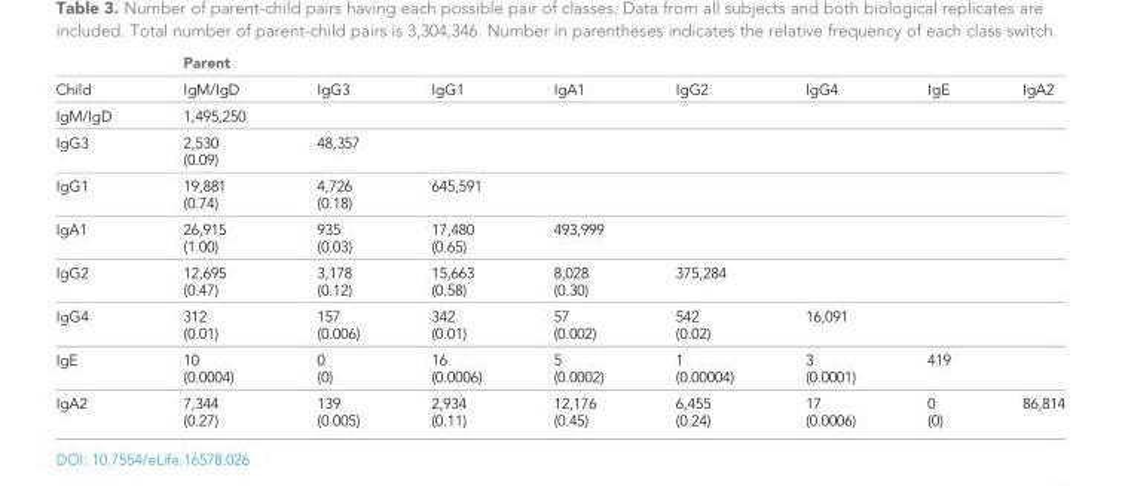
<table><thead><tr><td rowspan="2">Child</td><td colspan="8">Parent</td></tr><tr><td>IgM/IgD</td><td>IgG3</td><td>IgG1</td><td>IgA1</td><td>IgG2</td><td>IgG4</td><td>IgE</td><td>IgA2</td></tr></thead><tbody><tr><td>IgM/IgD</td><td>1,495,250</td><td></td><td></td><td></td><td></td><td></td><td></td><td></td></tr><tr><td>IgG3</td><td>2,530 (0.09)</td><td>48,357</td><td></td><td></td><td></td><td></td><td></td><td></td></tr><tr><td>IgG1</td><td>19,881 (0.74)</td><td>4,726 (0.18)</td><td>645,591</td><td></td><td></td><td></td><td></td><td></td></tr><tr><td>IgA1</td><td>26,915 (1.00)</td><td>935 (0.03)</td><td>17,480 (0.65)</td><td>493,999</td><td></td><td></td><td></td><td></td></tr><tr><td>IgG2</td><td>12,695 (0.47)</td><td>3,178 (0.12)</td><td>15,663 (0.58)</td><td>8,028 (0.30)</td><td>375,284</td><td></td><td></td><td></td></tr><tr><td>IgG4</td><td>312 (0.01)</td><td>157 (0.006)</td><td>342 (0.01)</td><td>57 (0.002)</td><td>542 (0.02)</td><td>16,091</td><td></td><td></td></tr><tr><td>IgE</td><td>10 (0.0004)</td><td>0 (0)</td><td>16 (0.0006)</td><td>5 (0.0002)</td><td>1 (0.00004)</td><td>3 (0.0001)</td><td>419</td><td></td></tr><tr><td>IgA2</td><td>7,344 (0.27)</td><td>139 (0.005)</td><td>2,934 (0.11)</td><td>12,176 (0.45)</td><td>6,455 (0.24)</td><td>17 (0.0006)</td><td>0 (0)</td><td>86,814</td></tr></tbody></table>